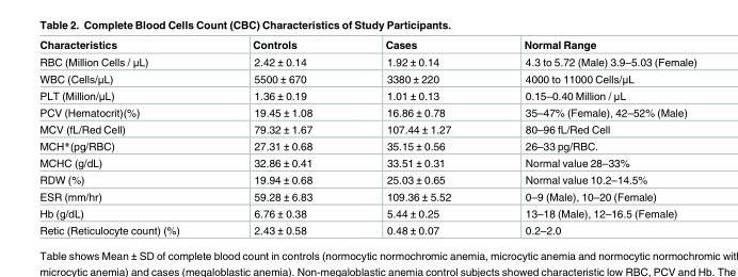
<table><thead><tr><td>Characteristics</td><td>Controls</td><td>Cases</td><td>Normal Range</td></tr></thead><tbody><tr><td>RBC (Million Cells / μL)</td><td>2.42 ± 0.14</td><td>1.92 ± 0.14</td><td>4.3 to 5.72 (Male) 3.9–5.03 (Female)</td></tr><tr><td>WBC (Cells/μL)</td><td>5500 ± 670</td><td>3380 ± 220</td><td>4000 to 11000 Cells/μL</td></tr><tr><td>PLT (Million/μL)</td><td>1.36 ± 0.19</td><td>1.01 ± 0.13</td><td>0.15–0.40 Million / μL</td></tr><tr><td>PCV (Hematocrit)(%)</td><td>19.45 ± 1.08</td><td>16.86 ± 0.78</td><td>35–47% (Female), 42–52% (Male)</td></tr><tr><td>MCV (fL/Red Cell)</td><td>79.32 ± 1.67</td><td>107.44 ± 1.27</td><td>80–96 fL/Red Cell</td></tr><tr><td>MCH*(pg/RBC)</td><td>27.31 ± 0.68</td><td>35.15 ± 0.56</td><td>26–33 pg/RBC.</td></tr><tr><td>MCHC (g/dL)</td><td>32.86 ± 0.41</td><td>33.51 ± 0.31</td><td>Normal value 28–33%</td></tr><tr><td>RDW (%)</td><td>19.94 ± 0.68</td><td>25.03 ± 0.65</td><td>Normal value 10.2–14.5%</td></tr><tr><td>ESR (mm/hr)</td><td>59.28 ± 6.83</td><td>109.36 ± 5.52</td><td>0–9 (Male), 10–20 (Female)</td></tr><tr><td>Hb (g/dL)</td><td>6.76 ± 0.38</td><td>5.44 ± 0.25</td><td>13–18 (Male), 12–16.5 (Female)</td></tr><tr><td>Retic (Reticulocyte count) (%)</td><td>2.43 ± 0.58</td><td>0.48 ± 0.07</td><td>0.2–2.0</td></tr></tbody></table>